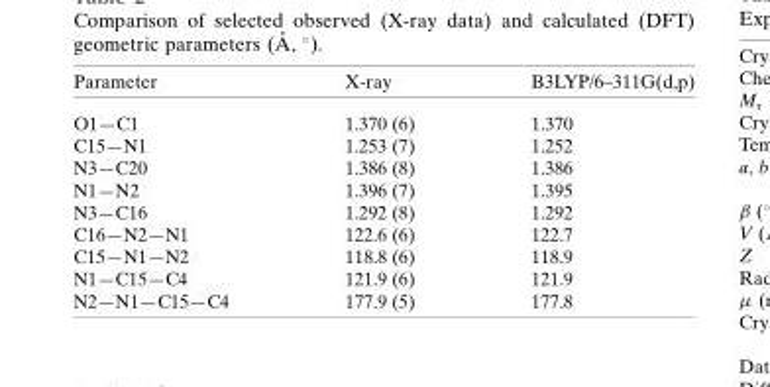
<table><thead><tr><td>Parameter</td><td>X-ray</td><td>B3LYP/6–311G(d,p)</td></tr></thead><tbody><tr><td>O1—C1</td><td>1.370 (6)</td><td>1.370</td></tr><tr><td>C15—N1</td><td>1.253 (7)</td><td>1.252</td></tr><tr><td>N3—C20</td><td>1.386 (8)</td><td>1.386</td></tr><tr><td>N1—N2</td><td>1.396 (7)</td><td>1.395</td></tr><tr><td>N3—C16</td><td>1.292 (8)</td><td>1.292</td></tr><tr><td>C16—N2—N1</td><td>122.6 (6)</td><td>122.7</td></tr><tr><td>C15—N1—N2</td><td>118.8 (6)</td><td>118.9</td></tr><tr><td>N1—C15—C4</td><td>121.9 (6)</td><td>121.9</td></tr><tr><td>N2—N1—C15—C4</td><td>177.9 (5)</td><td>177.8</td></tr></tbody></table>